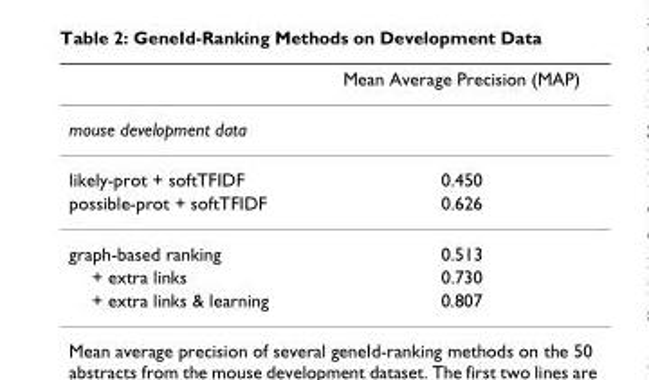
<table><thead><tr><td></td><td>Mean Average Precision (MAP)</td></tr></thead><tbody><tr><td colspan="2">mouse development data</td></tr><tr><td>likely-prot + softTFIDF</td><td>0.450</td></tr><tr><td>possible-prot + softTFIDF</td><td>0.626</td></tr><tr><td>graph-based ranking</td><td>0.513</td></tr><tr><td>+ extra links</td><td>0.730</td></tr><tr><td>+ extra links &amp; learning</td><td>0.807</td></tr></tbody></table>